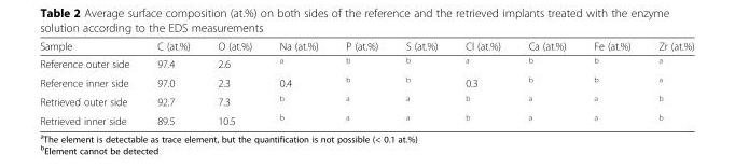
<table><thead><tr><td>Sample</td><td>C (at.%)</td><td>O (at.%)</td><td>Na (at.%)</td><td>P (at.%)</td><td>S (at.%)</td><td>Cl (at.%)</td><td>Ca (at.%)</td><td>Fe (at.%)</td><td>Zr (at.%)</td></tr></thead><tbody><tr><td>Reference outer side</td><td>97.4</td><td>2.6</td><td><sup>a</sup></td><td><sup>b</sup></td><td><sup>b</sup></td><td><sup>a</sup></td><td><sup>b</sup></td><td><sup>b</sup></td><td><sup>a</sup></td></tr><tr><td>Reference inner side</td><td>97.0</td><td>2.3</td><td>0.4</td><td><sup>b</sup></td><td><sup>b</sup></td><td>0.3</td><td><sup>b</sup></td><td><sup>b</sup></td><td><sup>a</sup></td></tr><tr><td>Retrieved outer side</td><td>92.7</td><td>7.3</td><td><sup>b</sup></td><td><sup>a</sup></td><td><sup>a</sup></td><td><sup>b</sup></td><td><sup>a</sup></td><td><sup>a</sup></td><td><sup>b</sup></td></tr><tr><td>Retrieved inner side</td><td>89.5</td><td>10.5</td><td><sup>b</sup></td><td><sup>a</sup></td><td><sup>a</sup></td><td><sup>b</sup></td><td><sup>a</sup></td><td><sup>a</sup></td><td><sup>b</sup></td></tr></tbody></table>